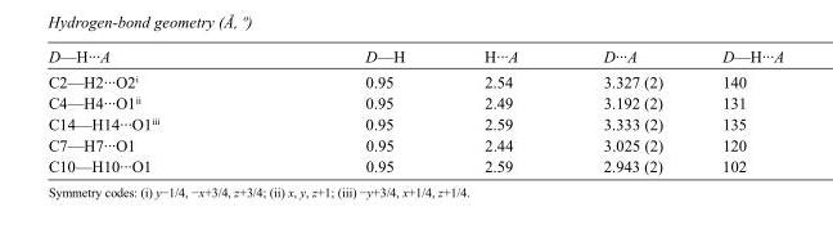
<table><tbody><tr><td>D—H···A</td><td>D—H</td><td>H···A</td><td>D···A</td><td>D—H···A</td></tr><tr><td>C2—H2···O2<sup>i</sup></td><td>0.95</td><td>2.54</td><td>3.327 (2)</td><td>140</td></tr><tr><td>C4—H4···O1<sup>ii</sup></td><td>0.95</td><td>2.49</td><td>3.192 (2)</td><td>131</td></tr><tr><td>C14—H14···O1<sup>iii</sup></td><td>0.95</td><td>2.59</td><td>3.333 (2)</td><td>135</td></tr><tr><td>C7—H7···O1</td><td>0.95</td><td>2.44</td><td>3.025 (2)</td><td>120</td></tr><tr><td>C10—H10···O1</td><td>0.95</td><td>2.59</td><td>2.943 (2)</td><td>102</td></tr></tbody></table>